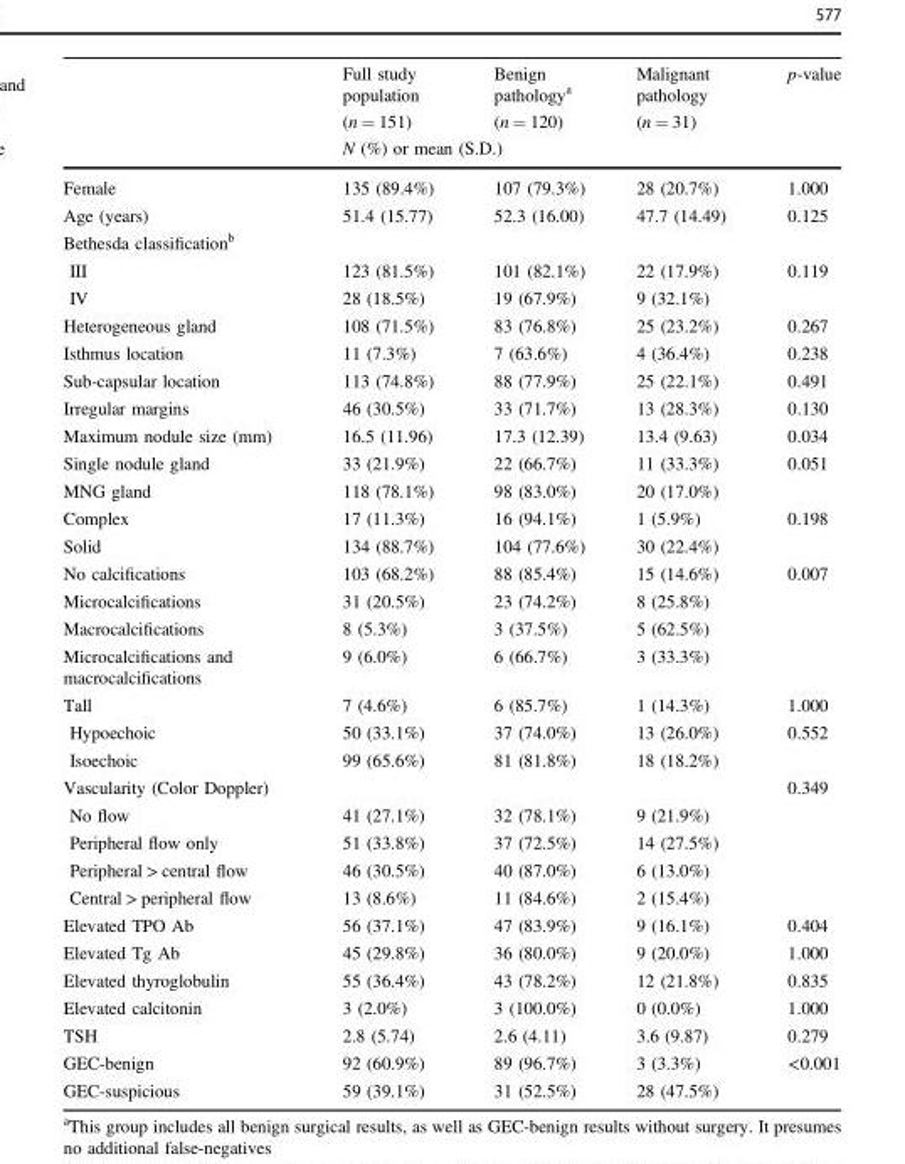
<table><thead><tr><td rowspan="3"></td><td rowspan="2">Full study population (n = 151)</td><td rowspan="2">Benign pathology<sup>a</sup> (n = 120)</td><td rowspan="2">Malignant pathology (n = 31)</td><td rowspan="3">p-value</td></tr><tr></tr><tr><td colspan="3">N (%) or mean (S.D.)</td></tr></thead><tbody><tr><td>Female</td><td>135 (89.4%)</td><td>107 (79.3%)</td><td>28 (20.7%)</td><td>1.000</td></tr><tr><td>Age (years)</td><td>51.4 (15.77)</td><td>52.3 (16.00)</td><td>47.7 (14.49)</td><td>0.125</td></tr><tr><td colspan="5">Bethesda classification<sup>b</sup></td></tr><tr><td>III</td><td>123 (81.5%)</td><td>101 (82.1%)</td><td>22 (17.9%)</td><td rowspan="2">0.119</td></tr><tr><td>IV</td><td>28 (18.5%)</td><td>19 (67.9%)</td><td>9 (32.1%)</td></tr><tr><td>Heterogeneous gland</td><td>108 (71.5%)</td><td>83 (76.8%)</td><td>25 (23.2%)</td><td>0.267</td></tr><tr><td>Isthmus location</td><td>11 (7.3%)</td><td>7 (63.6%)</td><td>4 (36.4%)</td><td>0.238</td></tr><tr><td>Sub-capsular location</td><td>113 (74.8%)</td><td>88 (77.9%)</td><td>25 (22.1%)</td><td>0.491</td></tr><tr><td>Irregular margins</td><td>46 (30.5%)</td><td>33 (71.7%)</td><td>13 (28.3%)</td><td>0.130</td></tr><tr><td>Maximum nodule size (mm)</td><td>16.5 (11.96)</td><td>17.3 (12.39)</td><td>13.4 (9.63)</td><td>0.034</td></tr><tr><td>Single nodule gland</td><td>33 (21.9%)</td><td>22 (66.7%)</td><td>11 (33.3%)</td><td rowspan="2">0.051</td></tr><tr><td>MNG gland</td><td>118 (78.1%)</td><td>98 (83.0%)</td><td>20 (17.0%)</td></tr><tr><td>Complex</td><td>17 (11.3%)</td><td>16 (94.1%)</td><td>1 (5.9%)</td><td rowspan="2">0.198</td></tr><tr><td>Solid</td><td>134 (88.7%)</td><td>104 (77.6%)</td><td>30 (22.4%)</td></tr><tr><td>No calcifications</td><td>103 (68.2%)</td><td>88 (85.4%)</td><td>15 (14.6%)</td><td rowspan="4">0.007</td></tr><tr><td>Microcalcifications</td><td>31 (20.5%)</td><td>23 (74.2%)</td><td>8 (25.8%)</td></tr><tr><td>Macrocalcifications</td><td>8 (5.3%)</td><td>3 (37.5%)</td><td>5 (62.5%)</td></tr><tr><td>Microcalcifications and macrocalcifications</td><td>9 (6.0%)</td><td>6 (66.7%)</td><td>3 (33.3%)</td></tr><tr><td>Tall</td><td>7 (4.6%)</td><td>6 (85.7%)</td><td>1 (14.3%)</td><td>1.000</td></tr><tr><td>Hypoechoic</td><td>50 (33.1%)</td><td>37 (74.0%)</td><td>13 (26.0%)</td><td rowspan="2">0.552</td></tr><tr><td>Isoechoic</td><td>99 (65.6%)</td><td>81 (81.8%)</td><td>18 (18.2%)</td></tr><tr><td colspan="4">Vascularity (Color Doppler)</td><td rowspan="5">0.349</td></tr><tr><td>No flow</td><td>41 (27.1%)</td><td>32 (78.1%)</td><td>9 (21.9%)</td></tr><tr><td>Peripheral flow only</td><td>51 (33.8%)</td><td>37 (72.5%)</td><td>14 (27.5%)</td></tr><tr><td>Peripheral &gt; central flow</td><td>46 (30.5%)</td><td>40 (87.0%)</td><td>6 (13.0%)</td></tr><tr><td>Central &gt; peripheral flow</td><td>13 (8.6%)</td><td>11 (84.6%)</td><td>2 (15.4%)</td></tr><tr><td>Elevated TPO Ab</td><td>56 (37.1%)</td><td>47 (83.9%)</td><td>9 (16.1%)</td><td>0.404</td></tr><tr><td>Elevated Tg Ab</td><td>45 (29.8%)</td><td>36 (80.0%)</td><td>9 (20.0%)</td><td>1.000</td></tr><tr><td>Elevated thyroglobulin</td><td>55 (36.4%)</td><td>43 (78.2%)</td><td>12 (21.8%)</td><td>0.835</td></tr><tr><td>Elevated calcitonin</td><td>3 (2.0%)</td><td>3 (100.0%)</td><td>0 (0.0%)</td><td>1.000</td></tr><tr><td>TSH</td><td>2.8 (5.74)</td><td>2.6 (4.11)</td><td>3.6 (9.87)</td><td>0.279</td></tr><tr><td>GEC-benign</td><td>92 (60.9%)</td><td>89 (96.7%)</td><td>3 (3.3%)</td><td rowspan="2">&lt;0.001</td></tr><tr><td>GEC-suspicious</td><td>59 (39.1%)</td><td>31 (52.5%)</td><td>28 (47.5%)</td></tr></tbody></table>